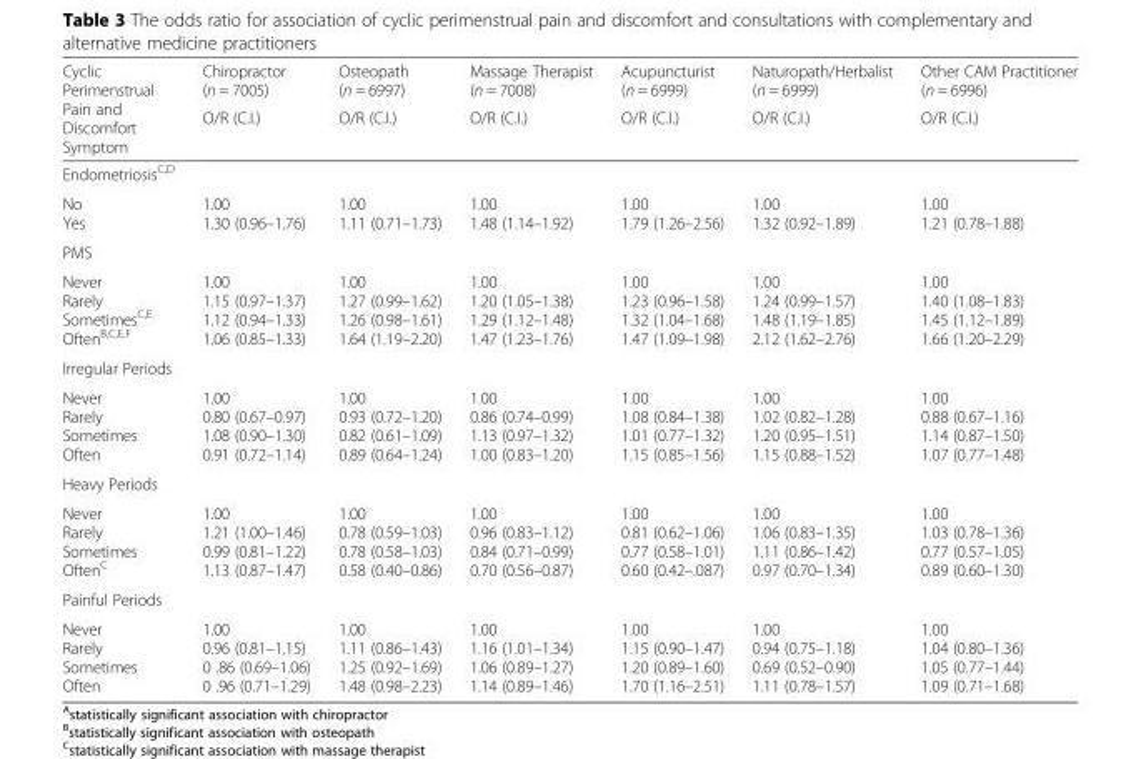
<table><thead><tr><td rowspan="2">Cyclic Perimenstrual Pain and Discomfort Symptom</td><td rowspan="2">Chiropractor (n = 7005) O/R (C.I.)</td><td rowspan="2">Osteopath (n = 6997) O/R (C.I.)</td><td rowspan="2">Massage Therapist (n = 7008) O/R (C.I.)</td><td rowspan="2">Acupuncturist (n = 6999) O/R (C.I.)</td><td rowspan="2">Naturopath/Herbalist (n = 6999) O/R (C.I.)</td><td rowspan="2">Other CAM Practitioner (n = 6996) O/R (C.I.)</td></tr><tr></tr></thead><tbody><tr><td colspan="7">Endometriosis<sup>C,D</sup></td></tr><tr><td>No Yes</td><td>1.00 1.30 (0.96–1.76)</td><td>1.00 1.11 (0.71–1.73)</td><td>1.00 1.48 (1.14–1.92)</td><td>1.00 1.79 (1.26–2.56)</td><td>1.00 1.32 (0.92–1.89)</td><td>1.00 1.21 (0.78–1.88)</td></tr><tr><td colspan="7">PMS</td></tr><tr><td>Never Rarely Sometimes<sup>C,E</sup> Often<sup>B,C,E,F</sup></td><td>1.00 1.15 (0.97–1.37) 1.12 (0.94–1.33) 1.06 (0.85–1.33)</td><td>1.00 1.27 (0.99–1.62) 1.26 (0.98–1.61) 1.64 (1.19–2.20)</td><td>1.00 1.20 (1.05–1.38) 1.29 (1.12–1.48) 1.47 (1.23–1.76)</td><td>1.00 1.23 (0.96–1.58) 1.32 (1.04–1.68) 1.47 (1.09–1.98)</td><td>1.00 1.24 (0.99–1.57) 1.48 (1.19–1.85) 2.12 (1.62–2.76)</td><td>1.00 1.40 (1.08–1.83) 1.45 (1.12–1.89) 1.66 (1.20–2.29)</td></tr><tr><td colspan="7">Irregular Periods</td></tr><tr><td>Never Rarely Sometimes Often</td><td>1.00 0.80 (0.67–0.97) 1.08 (0.90–1.30) 0.91 (0.72–1.14)</td><td>1.00 0.93 (0.72–1.20) 0.82 (0.61–1.09) 0.89 (0.64–1.24)</td><td>1.00 0.86 (0.74–0.99) 1.13 (0.97–1.32) 1.00 (0.83–1.20)</td><td>1.00 1.08 (0.84–1.38) 1.01 (0.77–1.32) 1.15 (0.85–1.56)</td><td>1.00 1.02 (0.82–1.28) 1.20 (0.95–1.51) 1.15 (0.88–1.52)</td><td>1.00 0.88 (0.67–1.16) 1.14 (0.87–1.50) 1.07 (0.77–1.48)</td></tr><tr><td colspan="7">Heavy Periods</td></tr><tr><td>Never Rarely Sometimes Often<sup>C</sup></td><td>1.00 1.21 (1.00–1.46) 0.99 (0.81–1.22) 1.13 (0.87–1.47)</td><td>1.00 0.78 (0.59–1.03) 0.78 (0.58–1.03) 0.58 (0.40–0.86)</td><td>1.00 0.96 (0.83–1.12) 0.84 (0.71–0.99) 0.70 (0.56–0.87)</td><td>1.00 0.81 (0.62–1.06) 0.77 (0.58–1.01) 0.60 (0.42–.087)</td><td>1.00 1.06 (0.83–1.35) 1.11 (0.86–1.42) 0.97 (0.70–1.34)</td><td>1.00 1.03 (0.78–1.36) 0.77 (0.57–1.05) 0.89 (0.60–1.30)</td></tr><tr><td colspan="7">Painful Periods</td></tr><tr><td>Never Rarely Sometimes Often</td><td>1.00 0.96 (0.81–1.15) 0 .86 (0.69–1.06) 0 .96 (0.71–1.29)</td><td>1.00 1.11 (0.86–1.43) 1.25 (0.92–1.69) 1.48 (0.98–2.23)</td><td>1.00 1.16 (1.01–1.34) 1.06 (0.89–1.27) 1.14 (0.89–1.46)</td><td>1.00 1.15 (0.90–1.47) 1.20 (0.89–1.60) 1.70 (1.16–2.51)</td><td>1.00 0.94 (0.75–1.18) 0.69 (0.52–0.90) 1.11 (0.78–1.57)</td><td>1.00 1.04 (0.80–1.36) 1.05 (0.77–1.44) 1.09 (0.71–1.68)</td></tr></tbody></table>